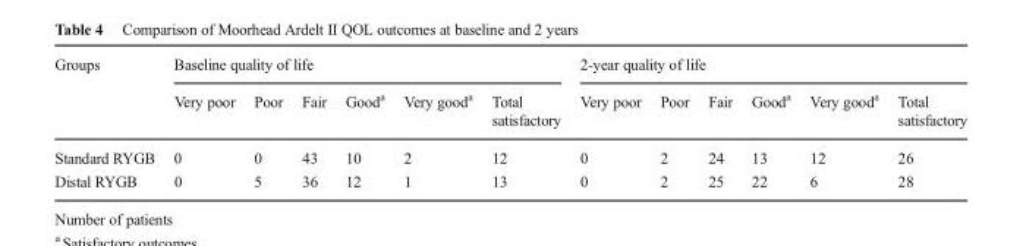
<table><thead><tr><td rowspan="2">Groups</td><td colspan="6">Baseline quality of life</td><td colspan="6">2-year quality of life</td></tr><tr><td>Very poor</td><td>Poor</td><td>Fair</td><td>Good<sup>a</sup></td><td>Very good<sup>a</sup></td><td>Total satisfactory</td><td>Very poor</td><td>Poor</td><td>Fair</td><td>Good<sup>a</sup></td><td>Very good<sup>a</sup></td><td>Total satisfactory</td></tr></thead><tbody><tr><td>Standard RYGB</td><td>0</td><td>0</td><td>43</td><td>10</td><td>2</td><td>12</td><td>0</td><td>2</td><td>24</td><td>13</td><td>12</td><td>26</td></tr><tr><td>Distal RYGB</td><td>0</td><td>5</td><td>36</td><td>12</td><td>1</td><td>13</td><td>0</td><td>2</td><td>25</td><td>22</td><td>6</td><td>28</td></tr></tbody></table>